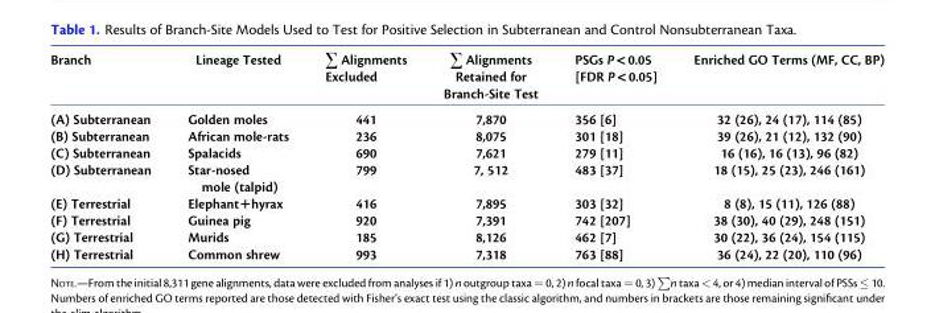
<table><thead><tr><td>Branch</td><td>Lineage Tested</td><td>+ Alignments Excluded</td><td>+ Alignments Retained for Branch-Site Test</td><td>PSGs P &lt; 0.05 [FDR P &lt; 0.05]</td><td>Enriched GO Terms (MF, CC, BP)</td></tr></thead><tbody><tr><td>(A) Subterranean</td><td>Golden moles</td><td>441</td><td>7,870</td><td>356 [6]</td><td>32 (26), 24 (17), 114 (85)</td></tr><tr><td>(B) Subterranean</td><td>African mole-rats</td><td>236</td><td>8,075</td><td>301 [18]</td><td>39 (26), 21 (12), 132 (90)</td></tr><tr><td>(C) Subterranean</td><td>Spalacids</td><td>690</td><td>7,621</td><td>279 [11]</td><td>16 (16), 16 (13), 96 (82)</td></tr><tr><td>(D) Subterranean</td><td>Star-nosed mole (talpid)</td><td>799</td><td>7, 512</td><td>483 [37]</td><td>18 (15), 25 (23), 246 (161)</td></tr><tr><td>(E) Terrestrial</td><td>Elephant+hyrax</td><td>416</td><td>7,895</td><td>303 [32]</td><td>8 (8), 15 (11), 126 (88)</td></tr><tr><td>(F) Terrestrial</td><td>Guinea pig</td><td>920</td><td>7,391</td><td>742 [207]</td><td>38 (30), 40 (29), 248 (151)</td></tr><tr><td>(G) Terrestrial</td><td>Murids</td><td>185</td><td>8,126</td><td>462 [7]</td><td>30 (22), 36 (24), 154 (115)</td></tr><tr><td>(H) Terrestrial</td><td>Common shrew</td><td>993</td><td>7,318</td><td>763 [88]</td><td>36 (24), 22 (20), 110 (96)</td></tr></tbody></table>